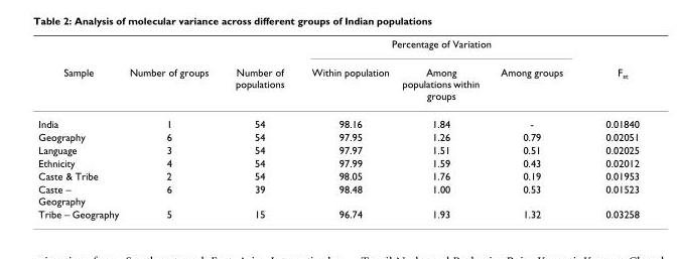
<table><thead><tr><td rowspan="2">Sample</td><td rowspan="2">Number of groups</td><td rowspan="2">Number of populations</td><td colspan="3">Percentage of Variation</td><td rowspan="2">F<sub>st</sub></td></tr><tr><td>Within population</td><td>Among populations within groups</td><td>Among groups</td></tr></thead><tbody><tr><td>India</td><td>1</td><td>54</td><td>98.16</td><td>1.84</td><td>-</td><td>0.01840</td></tr><tr><td>Geography</td><td>6</td><td>54</td><td>97.95</td><td>1.26</td><td>0.79</td><td>0.02051</td></tr><tr><td>Language</td><td>3</td><td>54</td><td>97.97</td><td>1.51</td><td>0.51</td><td>0.02025</td></tr><tr><td>Ethnicity</td><td>4</td><td>54</td><td>97.99</td><td>1.59</td><td>0.43</td><td>0.02012</td></tr><tr><td>Caste &amp; Tribe</td><td>2</td><td>54</td><td>98.05</td><td>1.76</td><td>0.19</td><td>0.01953</td></tr><tr><td>Caste – Geography</td><td>6</td><td>39</td><td>98.48</td><td>1.00</td><td>0.53</td><td>0.01523</td></tr><tr><td>Tribe – Geography</td><td>5</td><td>15</td><td>96.74</td><td>1.93</td><td>1.32</td><td>0.03258</td></tr></tbody></table>